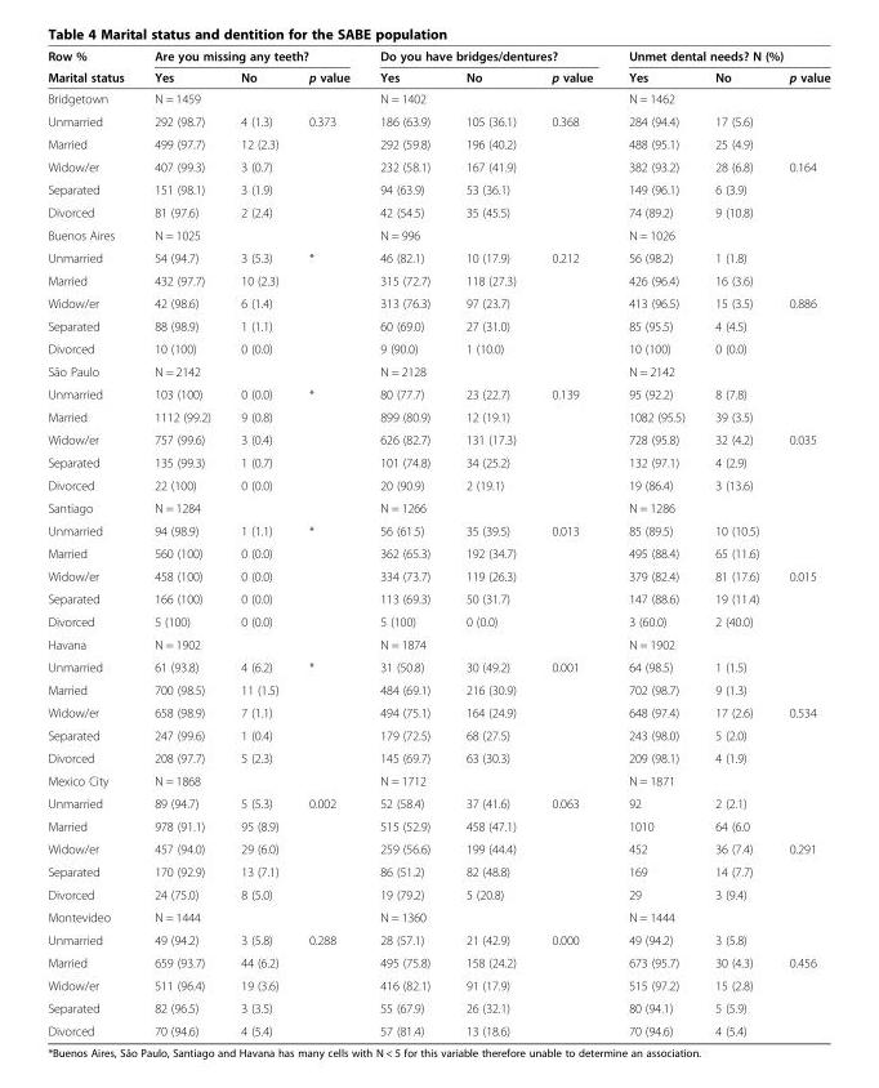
<table><thead><tr><td rowspan="2">Row % Marital status</td><td colspan="3">Are you missing any teeth?</td><td colspan="3">Do you have bridges/dentures?</td><td colspan="3">Unmet dental needs? N (%)</td></tr><tr><td>Yes</td><td>No</td><td>p value</td><td>Yes</td><td>No</td><td>p value</td><td>Yes</td><td>No</td><td>p value</td></tr></thead><tbody><tr><td>Bridgetown</td><td colspan="2">N = 1459</td><td></td><td colspan="2">N = 1402</td><td></td><td colspan="3">N = 1462</td></tr><tr><td>Unmarried</td><td>292 (98.7)</td><td>4 (1.3)</td><td>0.373</td><td>186 (63.9)</td><td>105 (36.1)</td><td>0.368</td><td>284 (94.4)</td><td>17 (5.6)</td><td></td></tr><tr><td>Married</td><td>499 (97.7)</td><td>12 (2.3)</td><td></td><td>292 (59.8)</td><td>196 (40.2)</td><td></td><td>488 (95.1)</td><td>25 (4.9)</td><td></td></tr><tr><td>Widow/er</td><td>407 (99.3)</td><td>3 (0.7)</td><td></td><td>232 (58.1)</td><td>167 (41.9)</td><td></td><td>382 (93.2)</td><td>28 (6.8)</td><td>0.164</td></tr><tr><td>Separated</td><td>151 (98.1)</td><td>3 (1.9)</td><td></td><td>94 (63.9)</td><td>53 (36.1)</td><td></td><td>149 (96.1)</td><td>6 (3.9)</td><td></td></tr><tr><td>Divorced</td><td>81 (97.6)</td><td>2 (2.4)</td><td></td><td>42 (54.5)</td><td>35 (45.5)</td><td></td><td>74 (89.2)</td><td>9 (10.8)</td><td></td></tr><tr><td>Buenos Aires</td><td colspan="2">N = 1025</td><td></td><td colspan="2">N = 996</td><td></td><td colspan="3">N = 1026</td></tr><tr><td>Unmarried</td><td>54 (94.7)</td><td>3 (5.3)</td><td>*</td><td>46 (82.1)</td><td>10 (17.9)</td><td>0.212</td><td>56 (98.2)</td><td>1 (1.8)</td><td></td></tr><tr><td>Married</td><td>432 (97.7)</td><td>10 (2.3)</td><td></td><td>315 (72.7)</td><td>118 (27.3)</td><td></td><td>426 (96.4)</td><td>16 (3.6)</td><td></td></tr><tr><td>Widow/er</td><td>42 (98.6)</td><td>6 (1.4)</td><td></td><td>313 (76.3)</td><td>97 (23.7)</td><td></td><td>413 (96.5)</td><td>15 (3.5)</td><td>0.886</td></tr><tr><td>Separated</td><td>88 (98.9)</td><td>1 (1.1)</td><td></td><td>60 (69.0)</td><td>27 (31.0)</td><td></td><td>85 (95.5)</td><td>4 (4.5)</td><td></td></tr><tr><td>Divorced</td><td>10 (100)</td><td>0 (0.0)</td><td></td><td>9 (90.0)</td><td>1 (10.0)</td><td></td><td>10 (100)</td><td>0 (0.0)</td><td></td></tr><tr><td>São Paulo</td><td colspan="2">N = 2142</td><td></td><td colspan="2">N = 2128</td><td></td><td colspan="3">N = 2142</td></tr><tr><td>Unmarried</td><td>103 (100)</td><td>0 (0.0)</td><td>*</td><td>80 (77.7)</td><td>23 (22.7)</td><td>0.139</td><td>95 (92.2)</td><td>8 (7.8)</td><td></td></tr><tr><td>Married</td><td>1112 (99.2)</td><td>9 (0.8)</td><td></td><td>899 (80.9)</td><td>12 (19.1)</td><td></td><td>1082 (95.5)</td><td>39 (3.5)</td><td></td></tr><tr><td>Widow/er</td><td>757 (99.6)</td><td>3 (0.4)</td><td></td><td>626 (82.7)</td><td>131 (17.3)</td><td></td><td>728 (95.8)</td><td>32 (4.2)</td><td>0.035</td></tr><tr><td>Separated</td><td>135 (99.3)</td><td>1 (0.7)</td><td></td><td>101 (74.8)</td><td>34 (25.2)</td><td></td><td>132 (97.1)</td><td>4 (2.9)</td><td></td></tr><tr><td>Divorced</td><td>22 (100)</td><td>0 (0.0)</td><td></td><td>20 (90.9)</td><td>2 (19.1)</td><td></td><td>19 (86.4)</td><td>3 (13.6)</td><td></td></tr><tr><td>Santiago</td><td colspan="2">N = 1284</td><td></td><td colspan="2">N = 1266</td><td></td><td colspan="3">N = 1286</td></tr><tr><td>Unmarried</td><td>94 (98.9)</td><td>1 (1.1)</td><td>*</td><td>56 (61.5)</td><td>35 (39.5)</td><td>0.013</td><td>85 (89.5)</td><td>10 (10.5)</td><td></td></tr><tr><td>Married</td><td>560 (100)</td><td>0 (0.0)</td><td></td><td>362 (65.3)</td><td>192 (34.7)</td><td></td><td>495 (88.4)</td><td>65 (11.6)</td><td></td></tr><tr><td>Widow/er</td><td>458 (100)</td><td>0 (0.0)</td><td></td><td>334 (73.7)</td><td>119 (26.3)</td><td></td><td>379 (82.4)</td><td>81 (17.6)</td><td>0.015</td></tr><tr><td>Separated</td><td>166 (100)</td><td>0 (0.0)</td><td></td><td>113 (69.3)</td><td>50 (31.7)</td><td></td><td>147 (88.6)</td><td>19 (11.4)</td><td></td></tr><tr><td>Divorced</td><td>5 (100)</td><td>0 (0.0)</td><td></td><td>5 (100)</td><td>0 (0.0)</td><td></td><td>3 (60.0)</td><td>2 (40.0)</td><td></td></tr><tr><td>Havana</td><td colspan="2">N = 1902</td><td></td><td colspan="2">N = 1874</td><td></td><td colspan="3">N = 1902</td></tr><tr><td>Unmarried</td><td>61 (93.8)</td><td>4 (6.2)</td><td>*</td><td>31 (50.8)</td><td>30 (49.2)</td><td>0.001</td><td>64 (98.5)</td><td>1 (1.5)</td><td></td></tr><tr><td>Married</td><td>700 (98.5)</td><td>11 (1.5)</td><td></td><td>484 (69.1)</td><td>216 (30.9)</td><td></td><td>702 (98.7)</td><td>9 (1.3)</td><td></td></tr><tr><td>Widow/er</td><td>658 (98.9)</td><td>7 (1.1)</td><td></td><td>494 (75.1)</td><td>164 (24.9)</td><td></td><td>648 (97.4)</td><td>17 (2.6)</td><td>0.534</td></tr><tr><td>Separated</td><td>247 (99.6)</td><td>1 (0.4)</td><td></td><td>179 (72.5)</td><td>68 (27.5)</td><td></td><td>243 (98.0)</td><td>5 (2.0)</td><td></td></tr><tr><td>Divorced</td><td>208 (97.7)</td><td>5 (2.3)</td><td></td><td>145 (69.7)</td><td>63 (30.3)</td><td></td><td>209 (98.1)</td><td>4 (1.9)</td><td></td></tr><tr><td>Mexico City</td><td colspan="2">N = 1868</td><td></td><td colspan="2">N = 1712</td><td></td><td colspan="3">N = 1871</td></tr><tr><td>Unmarried</td><td>89 (94.7)</td><td>5 (5.3)</td><td>0.002</td><td>52 (58.4)</td><td>37 (41.6)</td><td>0.063</td><td>92</td><td>2 (2.1)</td><td></td></tr><tr><td>Married</td><td>978 (91.1)</td><td>95 (8.9)</td><td></td><td>515 (52.9)</td><td>458 (47.1)</td><td></td><td>1010</td><td>64 (6.0</td><td></td></tr><tr><td>Widow/er</td><td>457 (94.0)</td><td>29 (6.0)</td><td></td><td>259 (56.6)</td><td>199 (44.4)</td><td></td><td>452</td><td>36 (7.4)</td><td>0.291</td></tr><tr><td>Separated</td><td>170 (92.9)</td><td>13 (7.1)</td><td></td><td>86 (51.2)</td><td>82 (48.8)</td><td></td><td>169</td><td>14 (7.7)</td><td></td></tr><tr><td>Divorced</td><td>24 (75.0)</td><td>8 (5.0)</td><td></td><td>19 (79.2)</td><td>5 (20.8)</td><td></td><td>29</td><td>3 (9.4)</td><td></td></tr><tr><td>Montevideo</td><td colspan="2">N = 1444</td><td></td><td colspan="2">N = 1360</td><td></td><td colspan="3">N = 1444</td></tr><tr><td>Unmarried</td><td>49 (94.2)</td><td>3 (5.8)</td><td>0.288</td><td>28 (57.1)</td><td>21 (42.9)</td><td>0.000</td><td>49 (94.2)</td><td>3 (5.8)</td><td></td></tr><tr><td>Married</td><td>659 (93.7)</td><td>44 (6.2)</td><td></td><td>495 (75.8)</td><td>158 (24.2)</td><td></td><td>673 (95.7)</td><td>30 (4.3)</td><td>0.456</td></tr><tr><td>Widow/er</td><td>511 (96.4)</td><td>19 (3.6)</td><td></td><td>416 (82.1)</td><td>91 (17.9)</td><td></td><td>515 (97.2)</td><td>15 (2.8)</td><td></td></tr><tr><td>Separated</td><td>82 (96.5)</td><td>3 (3.5)</td><td></td><td>55 (67.9)</td><td>26 (32.1)</td><td></td><td>80 (94.1)</td><td>5 (5.9)</td><td></td></tr><tr><td>Divorced</td><td>70 (94.6)</td><td>4 (5.4)</td><td></td><td>57 (81.4)</td><td>13 (18.6)</td><td></td><td>70 (94.6)</td><td>4 (5.4)</td><td></td></tr></tbody></table>